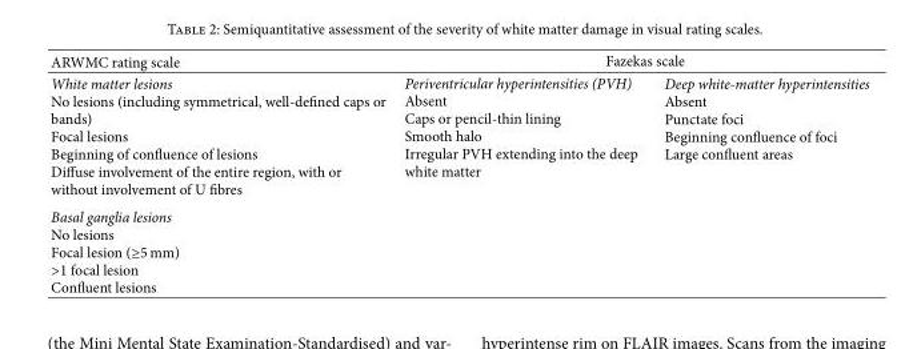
<table><thead><tr><td rowspan="2">ARWMC rating scale White matter lesions No lesions (including symmetrical, well-de�ned caps or bands) Focal lesions Beginning of con�uence of lesions Diffuse involvement of the entire region, with or without involvement of � �bres</td><td colspan="2">Fazekas scale</td></tr><tr><td>Periventricular hyperintensities (PVH) Absent Caps or pencil-thin lining Smooth halo Irregular PVH extending into the deep white matter</td><td>Deep white-matter hyperintensities Absent Punctate foci Beginning con�uence of foci Large con�uent areas</td></tr></thead><tbody><tr><td>Basal ganglia lesions No lesions Focal lesion (≥5 mm) &gt;1 focal lesion Con�uent lesions</td><td></td><td></td></tr></tbody></table>